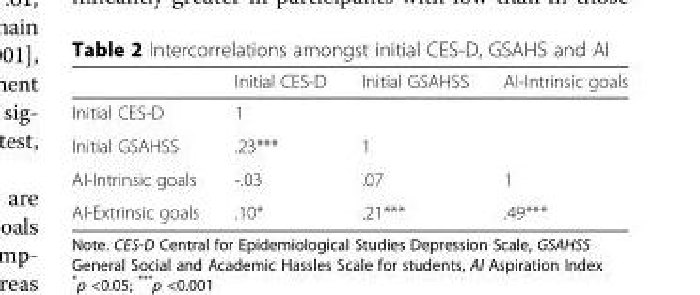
<table><thead><tr><td></td><td>Initial CES-D</td><td>Initial GSAHSS</td><td>AI-Intrinsic goals</td></tr></thead><tbody><tr><td>Initial CES-D</td><td>1</td><td></td><td></td></tr><tr><td>Initial GSAHSS</td><td>.23***</td><td>1</td><td></td></tr><tr><td>AI-Intrinsic goals</td><td>-.03</td><td>.07</td><td>1</td></tr><tr><td>AI-Extrinsic goals</td><td>.10*</td><td>.21***</td><td>.49***</td></tr></tbody></table>